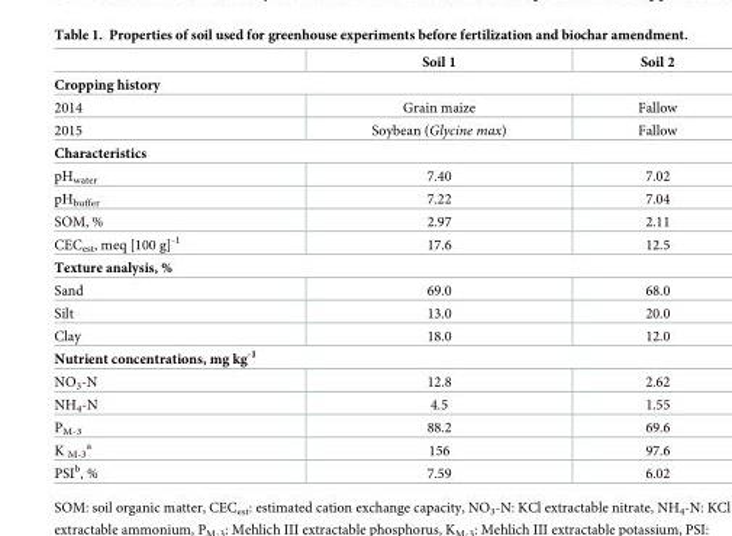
<table><thead><tr><td></td><td>Soil 1</td><td>Soil 2</td></tr></thead><tbody><tr><td colspan="3">Cropping history</td></tr><tr><td>2014</td><td>Grain maize</td><td>Fallow</td></tr><tr><td>2015</td><td>Soybean (Glycine max)</td><td>Fallow</td></tr><tr><td colspan="3">Characteristics</td></tr><tr><td>pH<sub>water</sub></td><td>7.40</td><td>7.02</td></tr><tr><td>pH<sub>buffer</sub></td><td>7.22</td><td>7.04</td></tr><tr><td>SOM, %</td><td>2.97</td><td>2.11</td></tr><tr><td>CEC<sub>est</sub>, meq [100 g]<sup>-1</sup></td><td>17.6</td><td>12.5</td></tr><tr><td colspan="3">Texture analysis, %</td></tr><tr><td>Sand</td><td>69.0</td><td>68.0</td></tr><tr><td>Silt</td><td>13.0</td><td>20.0</td></tr><tr><td>Clay</td><td>18.0</td><td>12.0</td></tr><tr><td colspan="3">Nutrient concentrations, mg kg<sup>-1</sup></td></tr><tr><td>NO<sub>3</sub>-N</td><td>12.8</td><td>2.62</td></tr><tr><td>NH<sub>4</sub>-N</td><td>4.5</td><td>1.55</td></tr><tr><td>P<sub>M-3</sub></td><td>88.2</td><td>69.6</td></tr><tr><td>K <sub>M-3</sub> <sup>a</sup></td><td>156</td><td>97.6</td></tr><tr><td>PSI<sup>b</sup>, %</td><td>7.59</td><td>6.02</td></tr></tbody></table>